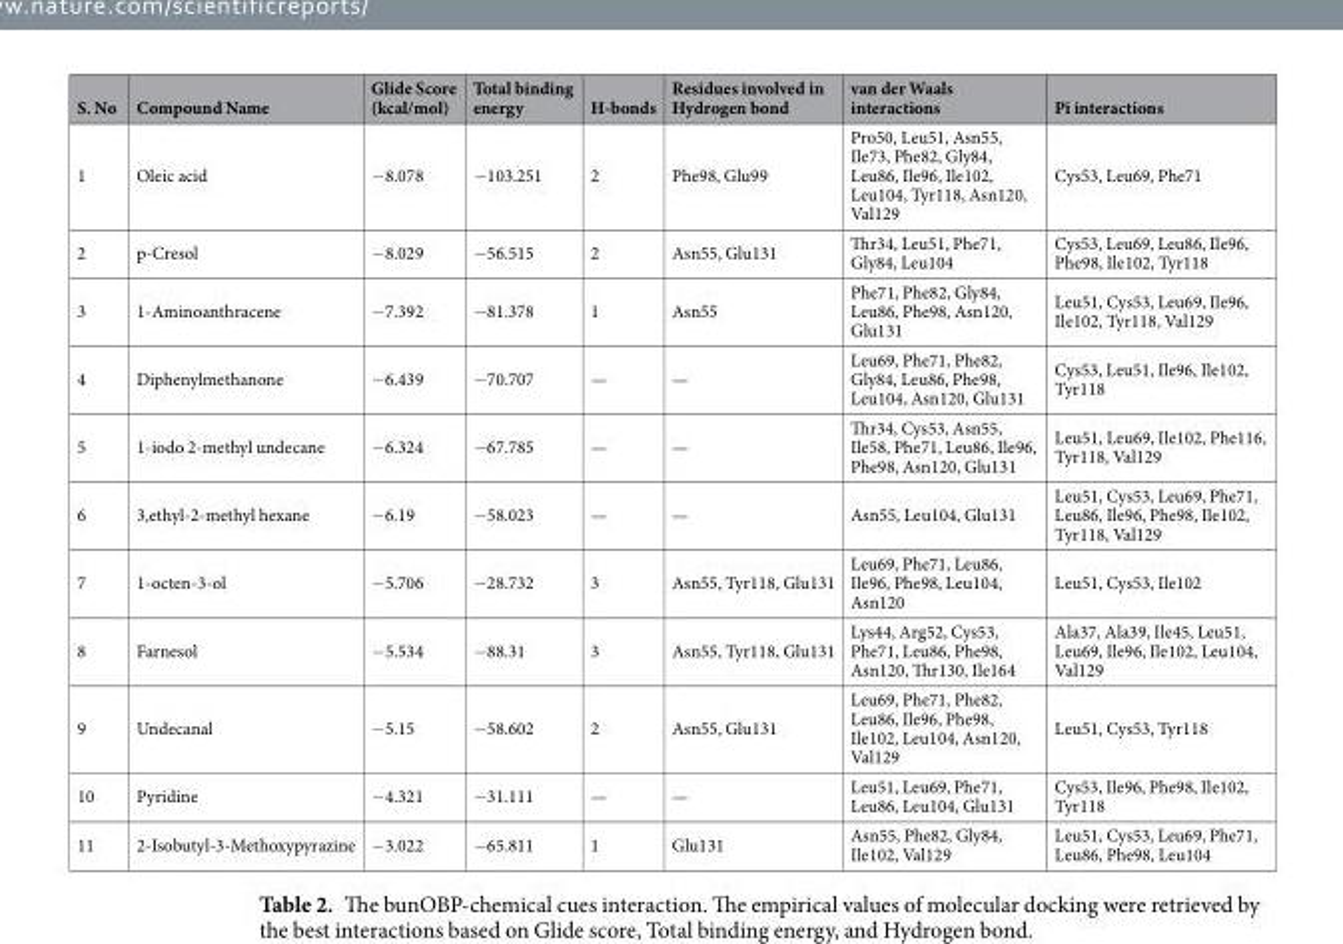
<table><thead><tr><td>S. No</td><td>Compound Name</td><td>Glide Score (kcal/mol)</td><td>Total binding energy</td><td>H-bonds</td><td>Residues involved in Hydrogen bond</td><td>van der Waals interactions</td><td>Pi interactions</td></tr></thead><tbody><tr><td>1</td><td>Oleic acid</td><td>−8.078</td><td>−103.251</td><td>2</td><td>Phe98, Glu99</td><td>Pro50, Leu51, Asn55, Ile73, Phe82, Gly84, Leu86, Ile96, Ile102, Leu104, Tyr118, Asn120, Val129</td><td>Cys53, Leu69, Phe71</td></tr><tr><td>2</td><td>p-Cresol</td><td>−8.029</td><td>−56.515</td><td>2</td><td>Asn55, Glu131</td><td>Thr34, Leu51, Phe71, Gly84, Leu104</td><td>Cys53, Leu69, Leu86, Ile96, Phe98, Ile102, Tyr118</td></tr><tr><td>3</td><td>1-Aminoanthracene</td><td>−7.392</td><td>−81.378</td><td>1</td><td>Asn55</td><td>Phe71, Phe82, Gly84, Leu86, Phe98, Asn120, Glu131</td><td>Leu51, Cys53, Leu69, Ile96, Ile102, Tyr118, Val129</td></tr><tr><td>4</td><td>Diphenylmethanone</td><td>−6.439</td><td>−70.707</td><td>—</td><td>—</td><td>Leu69, Phe71, Phe82, Gly84, Leu86, Phe98, Leu104, Asn120, Glu131</td><td>Cys53, Leu51, Ile96, Ile102, Tyr118</td></tr><tr><td>5</td><td>1-iodo 2-methyl undecane</td><td>−6.324</td><td>−67.785</td><td>—</td><td>—</td><td>Thr34, Cys53, Asn55, Ile58, Phe71, Leu86, Ile96, Phe98, Asn120, Glu131</td><td>Leu51, Leu69, Ile102, Phe116, Tyr118, Val129</td></tr><tr><td>6</td><td>3,ethyl-2-methyl hexane</td><td>−6.19</td><td>−58.023</td><td>—</td><td>—</td><td>Asn55, Leu104, Glu131</td><td>Leu51, Cys53, Leu69, Phe71, Leu86, Ile96, Phe98, Ile102, Tyr118, Val129</td></tr><tr><td>7</td><td>1-octen-3-ol</td><td>−5.706</td><td>−28.732</td><td>3</td><td>Asn55, Tyr118, Glu131</td><td>Leu69, Phe71, Leu86, Ile96, Phe98, Leu104, Asn120</td><td>Leu51, Cys53, Ile102</td></tr><tr><td>8</td><td>Farnesol</td><td>−5.534</td><td>−88.31</td><td>3</td><td>Asn55, Tyr118, Glu131</td><td>Lys44, Arg52, Cys53, Phe71, Leu86, Phe98, Asn120, Thr130, Ile164</td><td>Ala37, Ala39, Ile45, Leu51, Leu69, Ile96, Ile102, Leu104, Val129</td></tr><tr><td>9</td><td>Undecanal</td><td>−5.15</td><td>−58.602</td><td>2</td><td>Asn55, Glu131</td><td>Leu69, Phe71, Phe82, Leu86, Ile96, Phe98, Ile102, Leu104, Asn120, Val129</td><td>Leu51, Cys53, Tyr118</td></tr><tr><td>10</td><td>Pyridine</td><td>−4.321</td><td>−31.111</td><td>—</td><td>—</td><td>Leu51, Leu69, Phe71, Leu86, Leu104, Glu131</td><td>Cys53, Ile96, Phe98, Ile102, Tyr118</td></tr><tr><td>11</td><td>2-Isobutyl-3-Methoxypyrazine</td><td>−3.022</td><td>−65.811</td><td>1</td><td>Glu131</td><td>Asn55, Phe82, Gly84, Ile102, Val129</td><td>Leu51, Cys53, Leu69, Phe71, Leu86, Phe98, Leu104</td></tr></tbody></table>